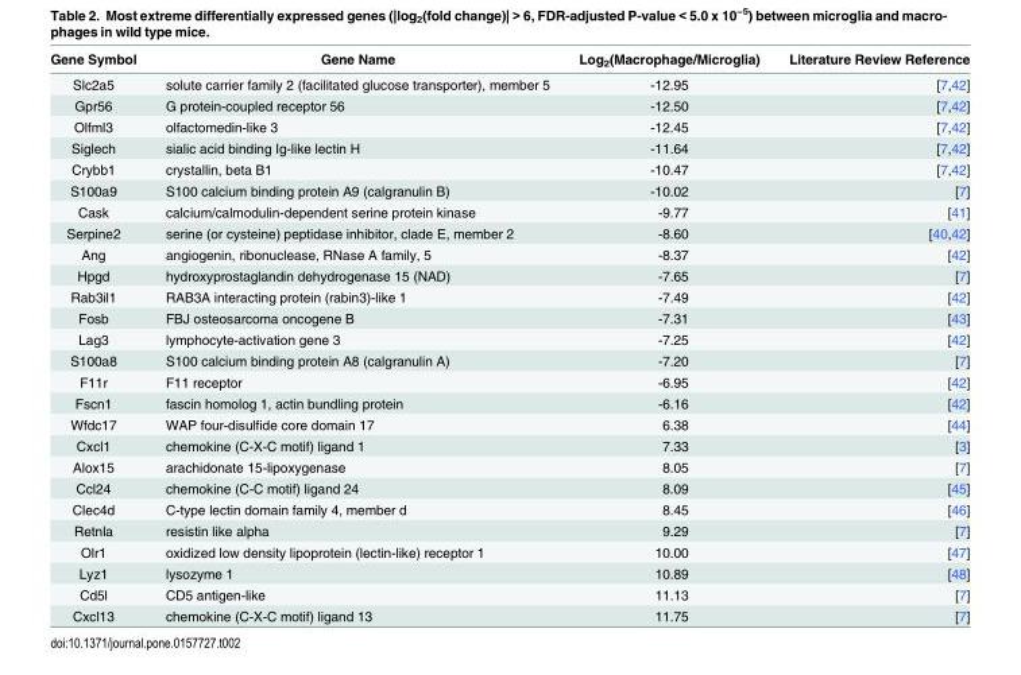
<table><thead><tr><td>Gene Symbol</td><td>Gene Name</td><td>Log<sub>2</sub>(Macrophage/Microglia)</td><td>Literature Review Reference</td></tr></thead><tbody><tr><td>Slc2a5</td><td>solute carrier family 2 (facilitated glucose transporter), member 5</td><td>-12.95</td><td>[7,42]</td></tr><tr><td>Gpr56</td><td>G protein-coupled receptor 56</td><td>-12.50</td><td>[7,42]</td></tr><tr><td>Olfml3</td><td>olfactomedin-like 3</td><td>-12.45</td><td>[7,42]</td></tr><tr><td>Siglech</td><td>sialic acid binding Ig-like lectin H</td><td>-11.64</td><td>[7,42]</td></tr><tr><td>Crybb1</td><td>crystallin, beta B1</td><td>-10.47</td><td>[7,42]</td></tr><tr><td>S100a9</td><td>S100 calcium binding protein A9 (calgranulin B)</td><td>-10.02</td><td>[7]</td></tr><tr><td>Cask</td><td>calcium/calmodulin-dependent serine protein kinase</td><td>-9.77</td><td>[41]</td></tr><tr><td>Serpine2</td><td>serine (or cysteine) peptidase inhibitor, clade E, member 2</td><td>-8.60</td><td>[40,42]</td></tr><tr><td>Ang</td><td>angiogenin, ribonuclease, RNase A family, 5</td><td>-8.37</td><td>[42]</td></tr><tr><td>Hpgd</td><td>hydroxyprostaglandin dehydrogenase 15 (NAD)</td><td>-7.65</td><td>[7]</td></tr><tr><td>Rab3il1</td><td>RAB3A interacting protein (rabin3)-like 1</td><td>-7.49</td><td>[42]</td></tr><tr><td>Fosb</td><td>FBJ osteosarcoma oncogene B</td><td>-7.31</td><td>[43]</td></tr><tr><td>Lag3</td><td>lymphocyte-activation gene 3</td><td>-7.25</td><td>[42]</td></tr><tr><td>S100a8</td><td>S100 calcium binding protein A8 (calgranulin A)</td><td>-7.20</td><td>[7]</td></tr><tr><td>F11r</td><td>F11 receptor</td><td>-6.95</td><td>[42]</td></tr><tr><td>Fscn1</td><td>fascin homolog 1, actin bundling protein</td><td>-6.16</td><td>[42]</td></tr><tr><td>Wfdc17</td><td>WAP four-disulfide core domain 17</td><td>6.38</td><td>[44]</td></tr><tr><td>Cxcl1</td><td>chemokine (C-X-C motif) ligand 1</td><td>7.33</td><td>[3]</td></tr><tr><td>Alox15</td><td>arachidonate 15-lipoxygenase</td><td>8.05</td><td>[7]</td></tr><tr><td>Ccl24</td><td>chemokine (C-C motif) ligand 24</td><td>8.09</td><td>[45]</td></tr><tr><td>Clec4d</td><td>C-type lectin domain family 4, member d</td><td>8.45</td><td>[46]</td></tr><tr><td>Retnla</td><td>resistin like alpha</td><td>9.29</td><td>[7]</td></tr><tr><td>Olr1</td><td>oxidized low density lipoprotein (lectin-like) receptor 1</td><td>10.00</td><td>[47]</td></tr><tr><td>Lyz1</td><td>lysozyme 1</td><td>10.89</td><td>[48]</td></tr><tr><td>Cd5l</td><td>CD5 antigen-like</td><td>11.13</td><td>[7]</td></tr><tr><td>Cxcl13</td><td>chemokine (C-X-C motif) ligand 13</td><td>11.75</td><td>[7]</td></tr></tbody></table>